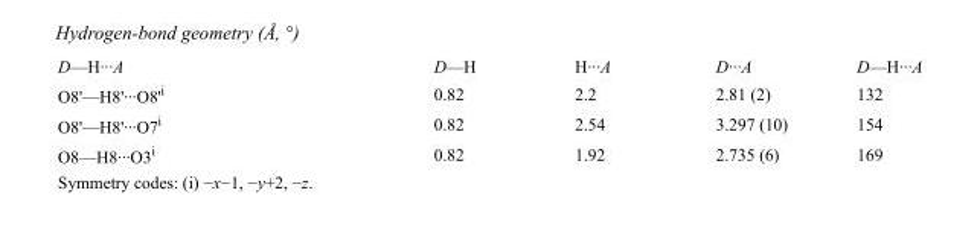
<table><tbody><tr><td>D—H···A</td><td>D—H</td><td>H···A</td><td>D···A</td><td>D—H···A</td></tr><tr><td>O8&#x27;—H8&#x27;···O8&#x27;<sup>i</sup></td><td>0.82</td><td>2.2</td><td>2.81 (2)</td><td>132</td></tr><tr><td>O8&#x27;—H8&#x27;···O7<sup>i</sup></td><td>0.82</td><td>2.54</td><td>3.297 (10)</td><td>154</td></tr><tr><td>O8—H8···O3<sup>i</sup></td><td>0.82</td><td>1.92</td><td>2.735 (6)</td><td>169</td></tr></tbody></table>